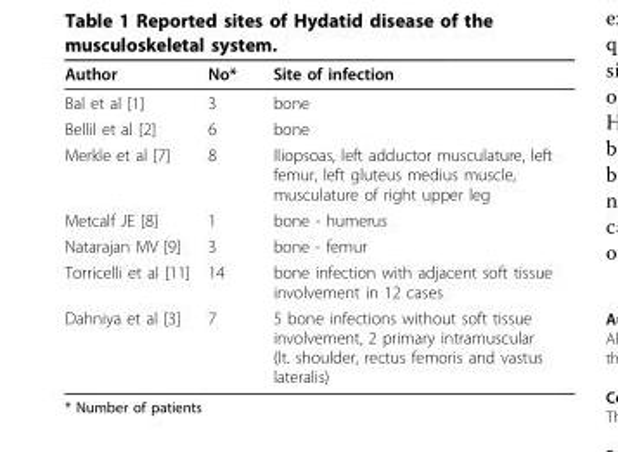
<table><thead><tr><td>Author</td><td>No*</td><td>Site of infection</td></tr></thead><tbody><tr><td>Bal et al [1]</td><td>3</td><td>bone</td></tr><tr><td>Bellil et al [2]</td><td>6</td><td>bone</td></tr><tr><td>Merkle et al [7]</td><td>8</td><td>Iliopsoas, left adductor musculature, left femur, left gluteus medius muscle, musculature of right upper leg</td></tr><tr><td>Metcalf JE [8]</td><td>1</td><td>bone - humerus</td></tr><tr><td>Natarajan MV [9]</td><td>3</td><td>bone - femur</td></tr><tr><td>Torricelli et al [11]</td><td>14</td><td>bone infection with adjacent soft tissue involvement in 12 cases</td></tr><tr><td>Dahniya et al [3]</td><td>7</td><td>5 bone infections without soft tissue involvement, 2 primary intramuscular (lt. shoulder, rectus femoris and vastus lateralis)</td></tr></tbody></table>